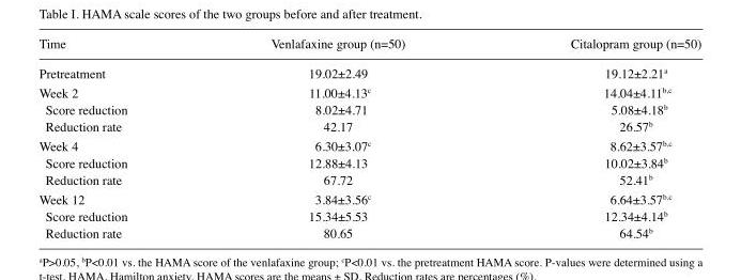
<table><thead><tr><td>Time</td><td>Venlafaxine group (n=50)</td><td>Citalopram group (n=50)</td></tr></thead><tbody><tr><td>Pretreatment</td><td>19.02±2.49</td><td>19.12±2.21<sup>a</sup></td></tr><tr><td>Week 2</td><td>11.00±4.13<sup>c</sup></td><td>14.04±4.11<sup>b,c</sup></td></tr><tr><td>Score reduction</td><td>8.02±4.71</td><td>5.08±4.18<sup>b</sup></td></tr><tr><td>Reduction rate</td><td>42.17</td><td>26.57<sup>b</sup></td></tr><tr><td>Week 4</td><td>6.30±3.07<sup>c</sup></td><td>8.62±3.57<sup>b,c</sup></td></tr><tr><td>Score reduction</td><td>12.88±4.13</td><td>10.02±3.84<sup>b</sup></td></tr><tr><td>Reduction rate</td><td>67.72</td><td>52.41<sup>b</sup></td></tr><tr><td>Week 12</td><td>3.84±3.56<sup>c</sup></td><td>6.64±3.57<sup>b,c</sup></td></tr><tr><td>Score reduction</td><td>15.34±5.53</td><td>12.34±4.14<sup>b</sup></td></tr><tr><td>Reduction rate</td><td>80.65</td><td>64.54<sup>b</sup></td></tr></tbody></table>